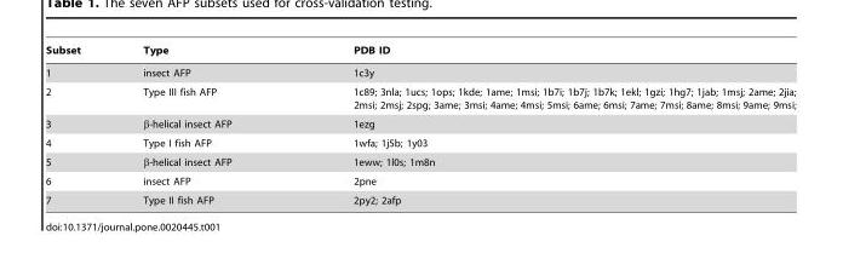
<table><thead><tr><td>Subset</td><td>Type</td><td>PDB ID</td></tr></thead><tbody><tr><td>1</td><td>insect AFP</td><td>1c3y</td></tr><tr><td>2</td><td>Type III fish AFP</td><td>1c89; 3nla; 1ucs; 1ops; 1kde; 1ame; 1msi; 1b7i; 1b7j; 1b7k; 1ekl; 1gzi; 1hg7; 1jab; 1msj; 2ame; 2jia; 2msi; 2msj; 2spg; 3ame; 3msi; 4ame; 4msi; 5msi; 6ame; 6msi; 7ame; 7msi; 8ame; 8msi; 9ame; 9msi;</td></tr><tr><td>3</td><td>β-helical insect AFP</td><td>1ezg</td></tr><tr><td>4</td><td>Type I fish AFP</td><td>1wfa; 1j5b; 1y03</td></tr><tr><td>5</td><td>β-helical insect AFP</td><td>1eww; 1l0s; 1m8n</td></tr><tr><td>6</td><td>insect AFP</td><td>2pne</td></tr><tr><td>7</td><td>Type II fish AFP</td><td>2py2; 2afp</td></tr></tbody></table>